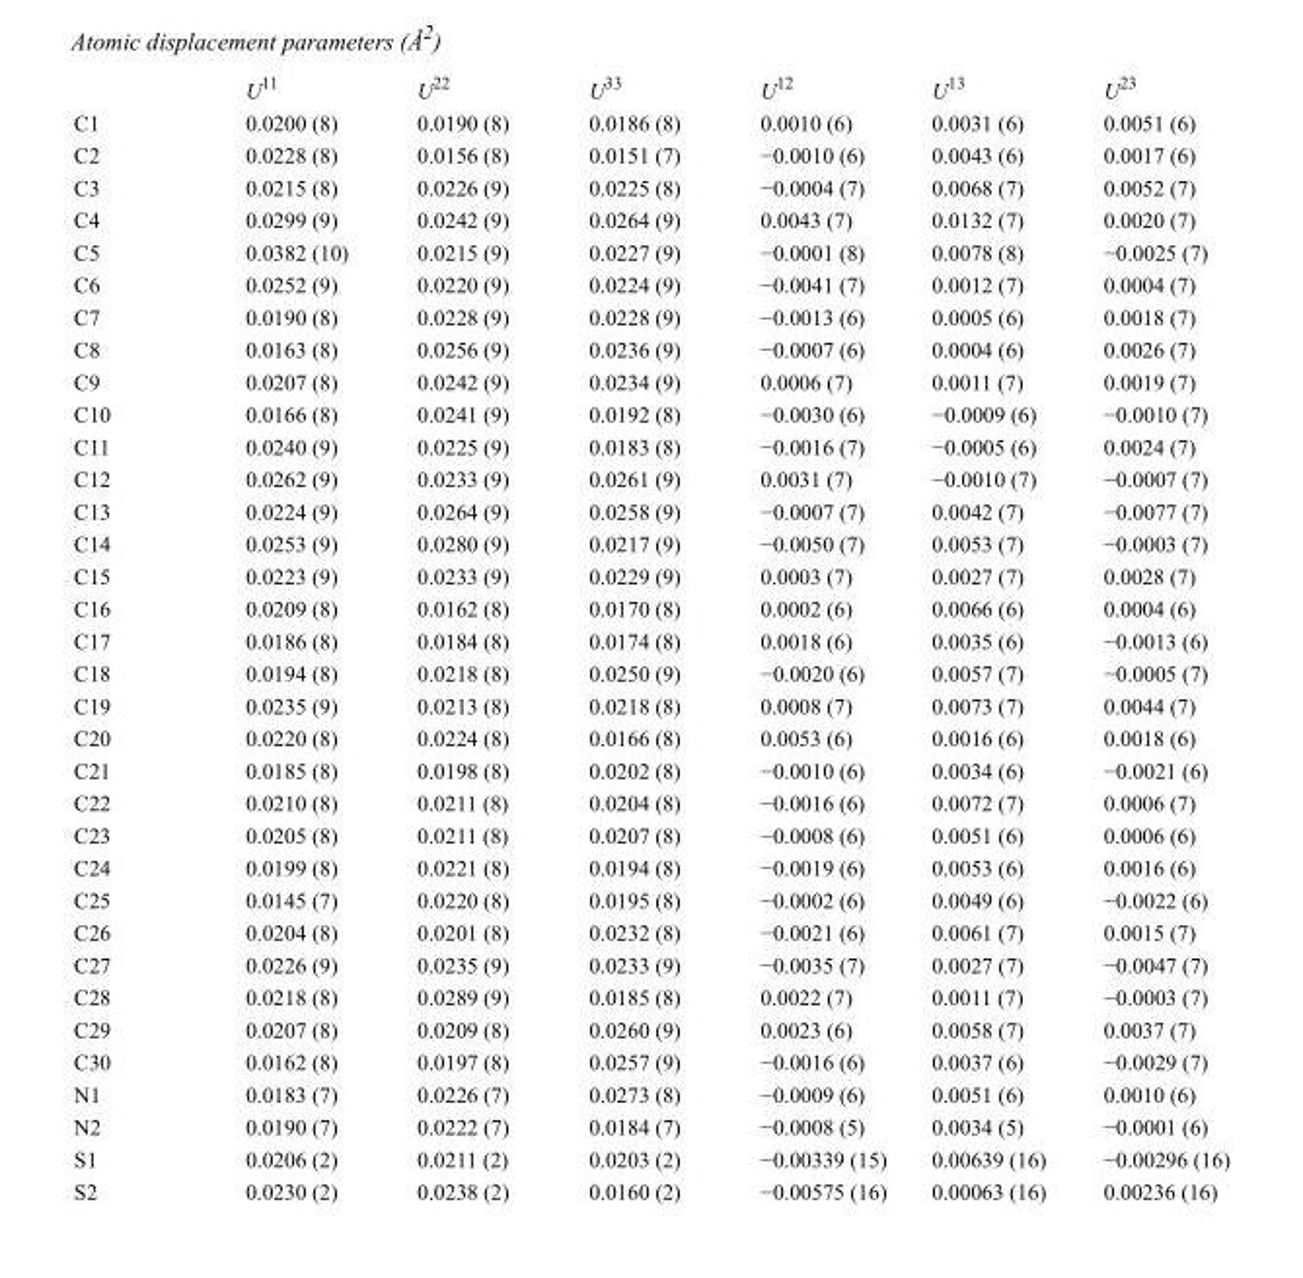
<table><thead><tr><td></td><td>U<sup>11</sup></td><td>U<sup>22</sup></td><td>U<sup>33</sup></td><td>U<sup>12</sup></td><td>U<sup>13</sup></td><td>U<sup>23</sup></td></tr></thead><tbody><tr><td>C1</td><td>0.0200 (8)</td><td>0.0190 (8)</td><td>0.0186 (8)</td><td>0.0010 (6)</td><td>0.0031 (6)</td><td>0.0051 (6)</td></tr><tr><td>C2</td><td>0.0228 (8)</td><td>0.0156 (8)</td><td>0.0151 (7)</td><td>−0.0010 (6)</td><td>0.0043 (6)</td><td>0.0017 (6)</td></tr><tr><td>C3</td><td>0.0215 (8)</td><td>0.0226 (9)</td><td>0.0225 (8)</td><td>−0.0004 (7)</td><td>0.0068 (7)</td><td>0.0052 (7)</td></tr><tr><td>C4</td><td>0.0299 (9)</td><td>0.0242 (9)</td><td>0.0264 (9)</td><td>0.0043 (7)</td><td>0.0132 (7)</td><td>0.0020 (7)</td></tr><tr><td>C5</td><td>0.0382 (10)</td><td>0.0215 (9)</td><td>0.0227 (9)</td><td>−0.0001 (8)</td><td>0.0078 (8)</td><td>−0.0025 (7)</td></tr><tr><td>C6</td><td>0.0252 (9)</td><td>0.0220 (9)</td><td>0.0224 (9)</td><td>−0.0041 (7)</td><td>0.0012 (7)</td><td>0.0004 (7)</td></tr><tr><td>C7</td><td>0.0190 (8)</td><td>0.0228 (9)</td><td>0.0228 (9)</td><td>−0.0013 (6)</td><td>0.0005 (6)</td><td>0.0018 (7)</td></tr><tr><td>C8</td><td>0.0163 (8)</td><td>0.0256 (9)</td><td>0.0236 (9)</td><td>−0.0007 (6)</td><td>0.0004 (6)</td><td>0.0026 (7)</td></tr><tr><td>C9</td><td>0.0207 (8)</td><td>0.0242 (9)</td><td>0.0234 (9)</td><td>0.0006 (7)</td><td>0.0011 (7)</td><td>0.0019 (7)</td></tr><tr><td>C10</td><td>0.0166 (8)</td><td>0.0241 (9)</td><td>0.0192 (8)</td><td>−0.0030 (6)</td><td>−0.0009 (6)</td><td>−0.0010 (7)</td></tr><tr><td>C11</td><td>0.0240 (9)</td><td>0.0225 (9)</td><td>0.0183 (8)</td><td>−0.0016 (7)</td><td>−0.0005 (6)</td><td>0.0024 (7)</td></tr><tr><td>C12</td><td>0.0262 (9)</td><td>0.0233 (9)</td><td>0.0261 (9)</td><td>0.0031 (7)</td><td>−0.0010 (7)</td><td>−0.0007 (7)</td></tr><tr><td>C13</td><td>0.0224 (9)</td><td>0.0264 (9)</td><td>0.0258 (9)</td><td>−0.0007 (7)</td><td>0.0042 (7)</td><td>−0.0077 (7)</td></tr><tr><td>C14</td><td>0.0253 (9)</td><td>0.0280 (9)</td><td>0.0217 (9)</td><td>−0.0050 (7)</td><td>0.0053 (7)</td><td>−0.0003 (7)</td></tr><tr><td>C15</td><td>0.0223 (9)</td><td>0.0233 (9)</td><td>0.0229 (9)</td><td>0.0003 (7)</td><td>0.0027 (7)</td><td>0.0028 (7)</td></tr><tr><td>C16</td><td>0.0209 (8)</td><td>0.0162 (8)</td><td>0.0170 (8)</td><td>0.0002 (6)</td><td>0.0066 (6)</td><td>0.0004 (6)</td></tr><tr><td>C17</td><td>0.0186 (8)</td><td>0.0184 (8)</td><td>0.0174 (8)</td><td>0.0018 (6)</td><td>0.0035 (6)</td><td>−0.0013 (6)</td></tr><tr><td>C18</td><td>0.0194 (8)</td><td>0.0218 (8)</td><td>0.0250 (9)</td><td>−0.0020 (6)</td><td>0.0057 (7)</td><td>−0.0005 (7)</td></tr><tr><td>C19</td><td>0.0235 (9)</td><td>0.0213 (8)</td><td>0.0218 (8)</td><td>0.0008 (7)</td><td>0.0073 (7)</td><td>0.0044 (7)</td></tr><tr><td>C20</td><td>0.0220 (8)</td><td>0.0224 (8)</td><td>0.0166 (8)</td><td>0.0053 (6)</td><td>0.0016 (6)</td><td>0.0018 (6)</td></tr><tr><td>C21</td><td>0.0185 (8)</td><td>0.0198 (8)</td><td>0.0202 (8)</td><td>−0.0010 (6)</td><td>0.0034 (6)</td><td>−0.0021 (6)</td></tr><tr><td>C22</td><td>0.0210 (8)</td><td>0.0211 (8)</td><td>0.0204 (8)</td><td>−0.0016 (6)</td><td>0.0072 (7)</td><td>0.0006 (7)</td></tr><tr><td>C23</td><td>0.0205 (8)</td><td>0.0211 (8)</td><td>0.0207 (8)</td><td>−0.0008 (6)</td><td>0.0051 (6)</td><td>0.0006 (6)</td></tr><tr><td>C24</td><td>0.0199 (8)</td><td>0.0221 (8)</td><td>0.0194 (8)</td><td>−0.0019 (6)</td><td>0.0053 (6)</td><td>0.0016 (6)</td></tr><tr><td>C25</td><td>0.0145 (7)</td><td>0.0220 (8)</td><td>0.0195 (8)</td><td>−0.0002 (6)</td><td>0.0049 (6)</td><td>−0.0022 (6)</td></tr><tr><td>C26</td><td>0.0204 (8)</td><td>0.0201 (8)</td><td>0.0232 (8)</td><td>−0.0021 (6)</td><td>0.0061 (7)</td><td>0.0015 (7)</td></tr><tr><td>C27</td><td>0.0226 (9)</td><td>0.0235 (9)</td><td>0.0233 (9)</td><td>−0.0035 (7)</td><td>0.0027 (7)</td><td>−0.0047 (7)</td></tr><tr><td>C28</td><td>0.0218 (8)</td><td>0.0289 (9)</td><td>0.0185 (8)</td><td>0.0022 (7)</td><td>0.0011 (7)</td><td>−0.0003 (7)</td></tr><tr><td>C29</td><td>0.0207 (8)</td><td>0.0209 (8)</td><td>0.0260 (9)</td><td>0.0023 (6)</td><td>0.0058 (7)</td><td>0.0037 (7)</td></tr><tr><td>C30</td><td>0.0162 (8)</td><td>0.0197 (8)</td><td>0.0257 (9)</td><td>−0.0016 (6)</td><td>0.0037 (6)</td><td>−0.0029 (7)</td></tr><tr><td>N1</td><td>0.0183 (7)</td><td>0.0226 (7)</td><td>0.0273 (8)</td><td>−0.0009 (6)</td><td>0.0051 (6)</td><td>0.0010 (6)</td></tr><tr><td>N2</td><td>0.0190 (7)</td><td>0.0222 (7)</td><td>0.0184 (7)</td><td>−0.0008 (5)</td><td>0.0034 (5)</td><td>−0.0001 (6)</td></tr><tr><td>S1</td><td>0.0206 (2)</td><td>0.0211 (2)</td><td>0.0203 (2)</td><td>−0.00339 (15)</td><td>0.00639 (16)</td><td>−0.00296 (16)</td></tr><tr><td>S2</td><td>0.0230 (2)</td><td>0.0238 (2)</td><td>0.0160 (2)</td><td>−0.00575 (16)</td><td>0.00063 (16)</td><td>0.00236 (16)</td></tr></tbody></table>